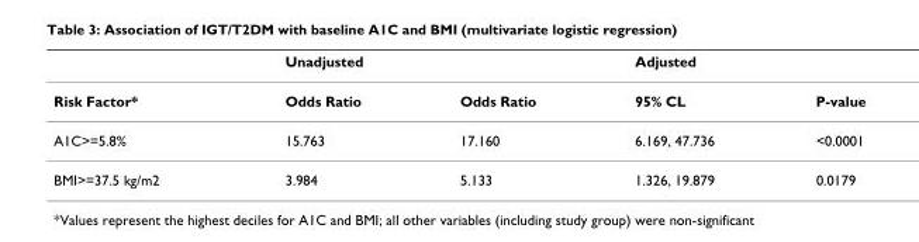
<table><thead><tr><td rowspan="2">Risk Factor*</td><td colspan="2">Unadjusted</td><td colspan="2">Adjusted</td></tr><tr><td>Odds Ratio</td><td>Odds Ratio</td><td>95% CL</td><td>P-value</td></tr></thead><tbody><tr><td>A1C&gt;=5.8%</td><td>15.763</td><td>17.160</td><td>6.169, 47.736</td><td>&lt;0.0001</td></tr><tr><td>BMI&gt;=37.5 kg/m2</td><td>3.984</td><td>5.133</td><td>1.326, 19.879</td><td>0.0179</td></tr></tbody></table>